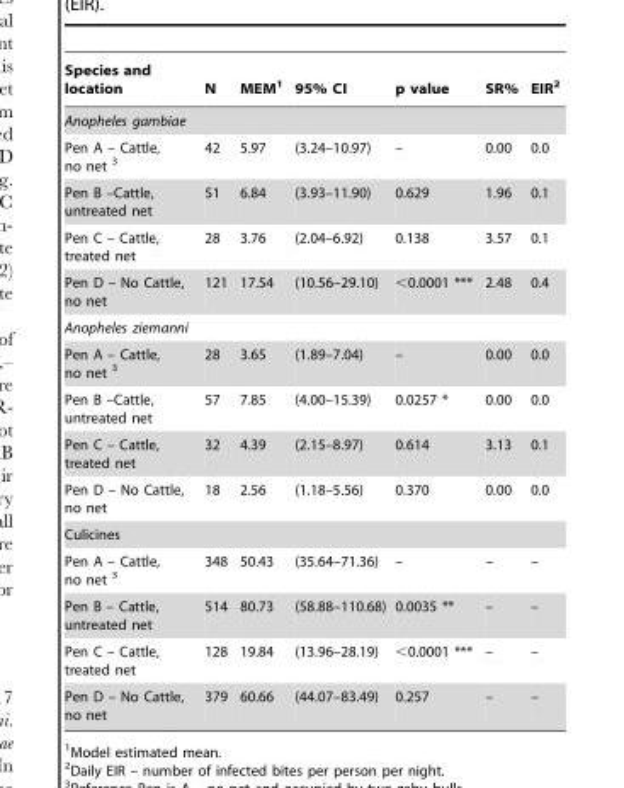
<table><thead><tr><td>Species and location</td><td>N</td><td>MEM<sup>1</sup></td><td>95% CI</td><td>p value</td><td>SR%</td><td>EIR<sup>2</sup></td></tr></thead><tbody><tr><td colspan="7">Anopheles gambiae</td></tr><tr><td>Pen A – Cattle, no net 3</td><td>42</td><td>5.97</td><td>(3.24–10.97)</td><td>–</td><td>0.00</td><td>0.0</td></tr><tr><td>Pen B –Cattle, untreated net</td><td>51</td><td>6.84</td><td>(3.93–11.90)</td><td>0.629</td><td>1.96</td><td>0.1</td></tr><tr><td>Pen C – Cattle, treated net</td><td>28</td><td>3.76</td><td>(2.04–6.92)</td><td>0.138</td><td>3.57</td><td>0.1</td></tr><tr><td>Pen D – No Cattle, no net</td><td>121</td><td>17.54</td><td>(10.56–29.10)</td><td>&lt;0.0001 ***</td><td>2.48</td><td>0.4</td></tr><tr><td colspan="7">Anopheles ziemanni</td></tr><tr><td>Pen A – Cattle, no net 3</td><td>28</td><td>3.65</td><td>(1.89–7.04)</td><td>–</td><td>0.00</td><td>0.0</td></tr><tr><td>Pen B –Cattle, untreated net</td><td>57</td><td>7.85</td><td>(4.00–15.39)</td><td>0.0257 *</td><td>0.00</td><td>0.0</td></tr><tr><td>Pen C – Cattle, treated net</td><td>32</td><td>4.39</td><td>(2.15–8.97)</td><td>0.614</td><td>3.13</td><td>0.1</td></tr><tr><td>Pen D – No Cattle, no net</td><td>18</td><td>2.56</td><td>(1.18–5.56)</td><td>0.370</td><td>0.00</td><td>0.0</td></tr><tr><td colspan="7">Culicines</td></tr><tr><td>Pen A – Cattle, no net 3</td><td>348</td><td>50.43</td><td>(35.64–71.36)</td><td>–</td><td>–</td><td>–</td></tr><tr><td>Pen B – Cattle, untreated net</td><td>514</td><td>80.73</td><td>(58.88–110.68)</td><td>0.0035 **</td><td>–</td><td>–</td></tr><tr><td>Pen C – Cattle, treated net</td><td>128</td><td>19.84</td><td>(13.96–28.19)</td><td>&lt;0.0001 ***</td><td>–</td><td>–</td></tr><tr><td>Pen D – No Cattle, no net</td><td>379</td><td>60.66</td><td>(44.07–83.49)</td><td>0.257</td><td>–</td><td>–</td></tr></tbody></table>